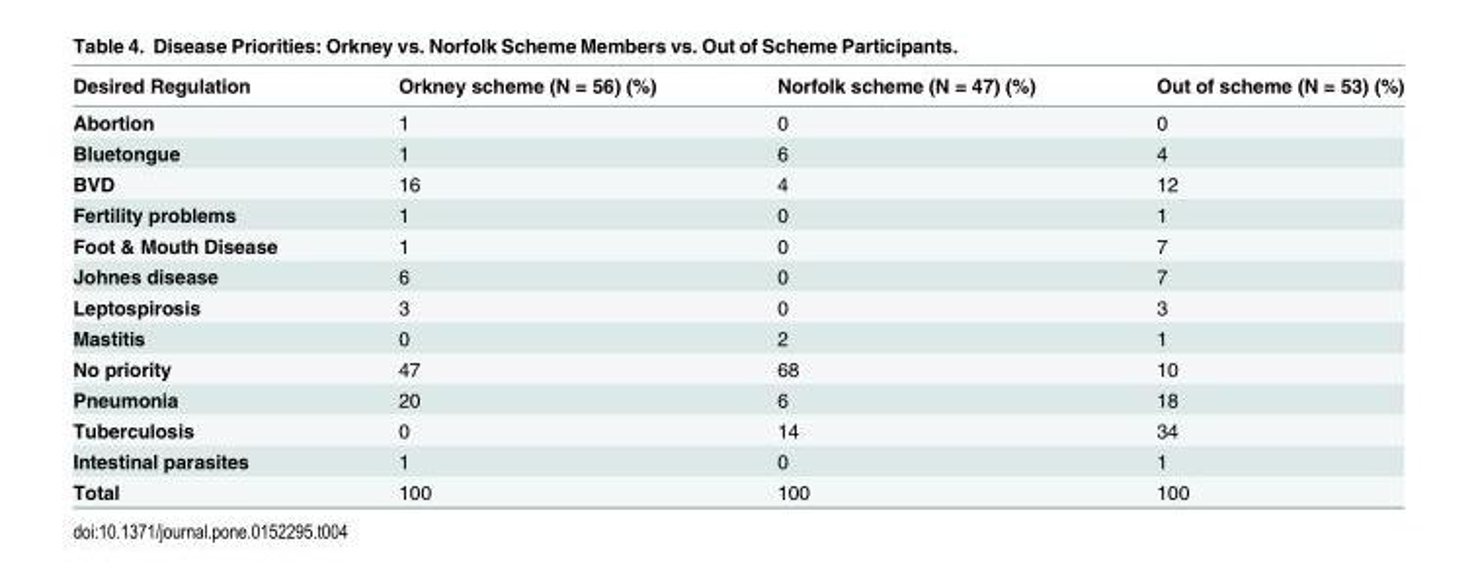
<table><thead><tr><td>Desired Regulation</td><td>Orkney scheme (N = 56) (%)</td><td>Norfolk scheme (N = 47) (%)</td><td>Out of scheme (N = 53) (%)</td></tr></thead><tbody><tr><td>Abortion</td><td>1</td><td>0</td><td>0</td></tr><tr><td>Bluetongue</td><td>1</td><td>6</td><td>4</td></tr><tr><td>BVD</td><td>16</td><td>4</td><td>12</td></tr><tr><td>Fertility problems</td><td>1</td><td>0</td><td>1</td></tr><tr><td>Foot &amp; Mouth Disease</td><td>1</td><td>0</td><td>7</td></tr><tr><td>Johnes disease</td><td>6</td><td>0</td><td>7</td></tr><tr><td>Leptospirosis</td><td>3</td><td>0</td><td>3</td></tr><tr><td>Mastitis</td><td>0</td><td>2</td><td>1</td></tr><tr><td>No priority</td><td>47</td><td>68</td><td>10</td></tr><tr><td>Pneumonia</td><td>20</td><td>6</td><td>18</td></tr><tr><td>Tuberculosis</td><td>0</td><td>14</td><td>34</td></tr><tr><td>Intestinal parasites</td><td>1</td><td>0</td><td>1</td></tr><tr><td>Total</td><td>100</td><td>100</td><td>100</td></tr></tbody></table>